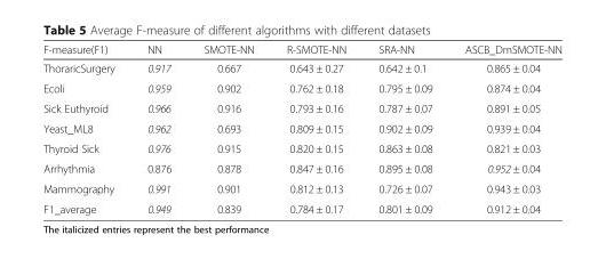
<table><thead><tr><td>F-measure(F1)</td><td>NN</td><td>SMOTE-NN</td><td>R-SMOTE-NN</td><td>SRA-NN</td><td>ASCB_DmSMOTE-NN</td></tr></thead><tbody><tr><td>ThoraricSurgery</td><td>0.917</td><td>0.667</td><td>0.643 ± 0.27</td><td>0.642 ± 0.1</td><td>0.865 ± 0.04</td></tr><tr><td>Ecoli</td><td>0.959</td><td>0.902</td><td>0.762 ± 0.18</td><td>0.795 ± 0.09</td><td>0.874 ± 0.04</td></tr><tr><td>Sick Euthyroid</td><td>0.966</td><td>0.916</td><td>0.793 ± 0.16</td><td>0.787 ± 0.07</td><td>0.891 ± 0.05</td></tr><tr><td>Yeast_ML8</td><td>0.962</td><td>0.693</td><td>0.809 ± 0.15</td><td>0.902 ± 0.09</td><td>0.939 ± 0.04</td></tr><tr><td>Thyroid Sick</td><td>0.976</td><td>0.915</td><td>0.820 ± 0.15</td><td>0.863 ± 0.08</td><td>0.821 ± 0.03</td></tr><tr><td>Arrhythmia</td><td>0.876</td><td>0.878</td><td>0.847 ± 0.16</td><td>0.895 ± 0.08</td><td>0.952 ± 0.04</td></tr><tr><td>Mammography</td><td>0.991</td><td>0.901</td><td>0.812 ± 0.13</td><td>0.726 ± 0.07</td><td>0.943 ± 0.03</td></tr><tr><td>F1_average</td><td>0.949</td><td>0.839</td><td>0.784 ± 0.17</td><td>0.801 ± 0.09</td><td>0.912 ± 0.04</td></tr></tbody></table>